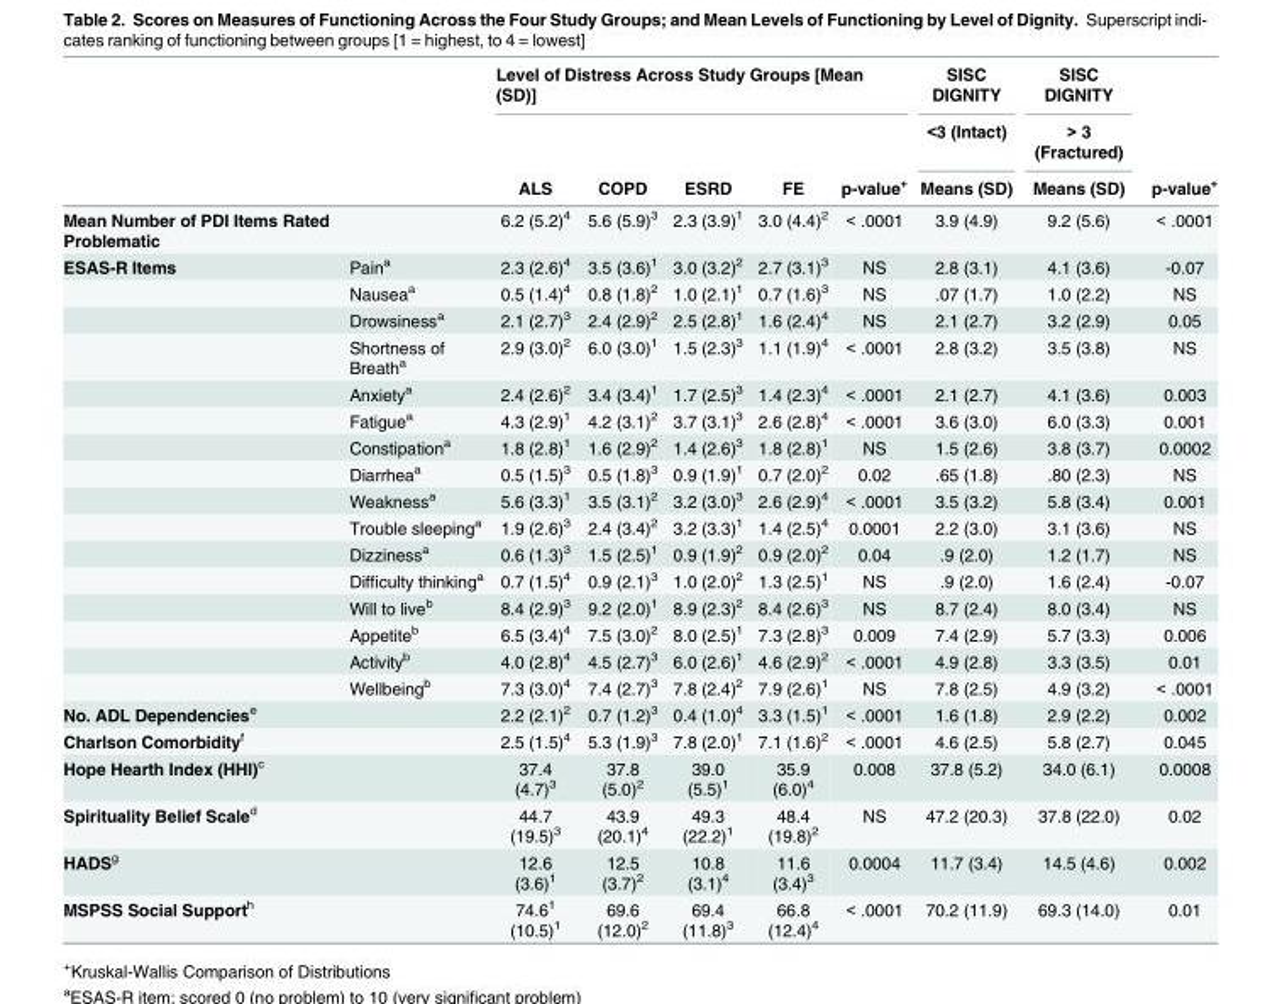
<table><thead><tr><td rowspan="3"></td><td rowspan="3"></td><td colspan="5">Level of Distress Across Study Groups [Mean (SD)]</td><td rowspan="3">SISC DIGNITY &lt;3 (Intact) Means (SD)</td><td rowspan="3">SISC DIGNITY &gt; 3 (Fractured) Means (SD)</td><td rowspan="3">p-value<sup>+</sup></td></tr><tr><td rowspan="2">ALS</td><td rowspan="2">COPD</td><td rowspan="2">ESRD</td><td rowspan="2">FE</td><td rowspan="2">p-value<sup>+</sup></td></tr><tr></tr></thead><tbody><tr><td>Mean Number of PDI Items Rated Problematic</td><td></td><td>6.2 (5.2)<sup>4</sup></td><td>5.6 (5.9)<sup>3</sup></td><td>2.3 (3.9)<sup>1</sup></td><td>3.0 (4.4)<sup>2</sup></td><td>&lt; .0001</td><td>3.9 (4.9)</td><td>9.2 (5.6)</td><td>&lt; .0001</td></tr><tr><td rowspan="16">ESAS-R Items</td><td>Pain<sup>a</sup></td><td>2.3 (2.6)<sup>4</sup></td><td>3.5 (3.6)<sup>1</sup></td><td>3.0 (3.2)<sup>2</sup></td><td>2.7 (3.1)<sup>3</sup></td><td>NS</td><td>2.8 (3.1)</td><td>4.1 (3.6)</td><td>-0.07</td></tr><tr><td>Nausea<sup>a</sup></td><td>0.5 (1.4)<sup>4</sup></td><td>0.8 (1.8)<sup>2</sup></td><td>1.0 (2.1)<sup>1</sup></td><td>0.7 (1.6)<sup>3</sup></td><td>NS</td><td>.07 (1.7)</td><td>1.0 (2.2)</td><td>NS</td></tr><tr><td>Drowsiness<sup>a</sup></td><td>2.1 (2.7)<sup>3</sup></td><td>2.4 (2.9)<sup>2</sup></td><td>2.5 (2.8)<sup>1</sup></td><td>1.6 (2.4)<sup>4</sup></td><td>NS</td><td>2.1 (2.7)</td><td>3.2 (2.9)</td><td>0.05</td></tr><tr><td>Shortness of Breath<sup>a</sup></td><td>2.9 (3.0)<sup>2</sup></td><td>6.0 (3.0)<sup>1</sup></td><td>1.5 (2.3)<sup>3</sup></td><td>1.1 (1.9)<sup>4</sup></td><td>&lt; .0001</td><td>2.8 (3.2)</td><td>3.5 (3.8)</td><td>NS</td></tr><tr><td>Anxiety<sup>a</sup></td><td>2.4 (2.6)<sup>2</sup></td><td>3.4 (3.4)<sup>1</sup></td><td>1.7 (2.5)<sup>3</sup></td><td>1.4 (2.3)<sup>4</sup></td><td>&lt; .0001</td><td>2.1 (2.7)</td><td>4.1 (3.6)</td><td>0.003</td></tr><tr><td>Fatigue<sup>a</sup></td><td>4.3 (2.9)<sup>1</sup></td><td>4.2 (3.1)<sup>2</sup></td><td>3.7 (3.1)<sup>3</sup></td><td>2.6 (2.8)<sup>4</sup></td><td>&lt; .0001</td><td>3.6 (3.0)</td><td>6.0 (3.3)</td><td>0.001</td></tr><tr><td>Constipation<sup>a</sup></td><td>1.8 (2.8)<sup>1</sup></td><td>1.6 (2.9)<sup>2</sup></td><td>1.4 (2.6)<sup>3</sup></td><td>1.8 (2.8)<sup>1</sup></td><td>NS</td><td>1.5 (2.6)</td><td>3.8 (3.7)</td><td>0.0002</td></tr><tr><td>Diarrhea<sup>a</sup></td><td>0.5 (1.5)<sup>3</sup></td><td>0.5 (1.8)<sup>3</sup></td><td>0.9 (1.9)<sup>1</sup></td><td>0.7 (2.0)<sup>2</sup></td><td>0.02</td><td>.65 (1.8)</td><td>.80 (2.3)</td><td>NS</td></tr><tr><td>Weakness<sup>a</sup></td><td>5.6 (3.3)<sup>1</sup></td><td>3.5 (3.1)<sup>2</sup></td><td>3.2 (3.0)<sup>3</sup></td><td>2.6 (2.9)<sup>4</sup></td><td>&lt; .0001</td><td>3.5 (3.2)</td><td>5.8 (3.4)</td><td>0.001</td></tr><tr><td>Trouble sleeping<sup>a</sup></td><td>1.9 (2.6)<sup>3</sup></td><td>2.4 (3.4)<sup>2</sup></td><td>3.2 (3.3)<sup>1</sup></td><td>1.4 (2.5)<sup>4</sup></td><td>0.0001</td><td>2.2 (3.0)</td><td>3.1 (3.6)</td><td>NS</td></tr><tr><td>Dizziness<sup>a</sup></td><td>0.6 (1.3)<sup>3</sup></td><td>1.5 (2.5)<sup>1</sup></td><td>0.9 (1.9)<sup>2</sup></td><td>0.9 (2.0)<sup>2</sup></td><td>0.04</td><td>.9 (2.0)</td><td>1.2 (1.7)</td><td>NS</td></tr><tr><td>Difficulty thinking<sup>a</sup></td><td>0.7 (1.5)<sup>4</sup></td><td>0.9 (2.1)<sup>3</sup></td><td>1.0 (2.0)<sup>2</sup></td><td>1.3 (2.5)<sup>1</sup></td><td>NS</td><td>.9 (2.0)</td><td>1.6 (2.4)</td><td>-0.07</td></tr><tr><td>Will to live<sup>b</sup></td><td>8.4 (2.9)<sup>3</sup></td><td>9.2 (2.0)<sup>1</sup></td><td>8.9 (2.3)<sup>2</sup></td><td>8.4 (2.6)<sup>3</sup></td><td>NS</td><td>8.7 (2.4)</td><td>8.0 (3.4)</td><td>NS</td></tr><tr><td>Appetite<sup>b</sup></td><td>6.5 (3.4)<sup>4</sup></td><td>7.5 (3.0)<sup>2</sup></td><td>8.0 (2.5)<sup>1</sup></td><td>7.3 (2.8)<sup>3</sup></td><td>0.009</td><td>7.4 (2.9)</td><td>5.7 (3.3)</td><td>0.006</td></tr><tr><td>Activity<sup>b</sup></td><td>4.0 (2.8)<sup>4</sup></td><td>4.5 (2.7)<sup>3</sup></td><td>6.0 (2.6)<sup>1</sup></td><td>4.6 (2.9)<sup>2</sup></td><td>&lt; .0001</td><td>4.9 (2.8)</td><td>3.3 (3.5)</td><td>0.01</td></tr><tr><td>Wellbeing<sup>b</sup></td><td>7.3 (3.0)<sup>4</sup></td><td>7.4 (2.7)<sup>3</sup></td><td>7.8 (2.4)<sup>2</sup></td><td>7.9 (2.6)<sup>1</sup></td><td>NS</td><td>7.8 (2.5)</td><td>4.9 (3.2)</td><td>&lt; .0001</td></tr><tr><td>No. ADL Dependencies<sup>e</sup></td><td></td><td>2.2 (2.1)<sup>2</sup></td><td>0.7 (1.2)<sup>3</sup></td><td>0.4 (1.0)<sup>4</sup></td><td>3.3 (1.5)<sup>1</sup></td><td>&lt; .0001</td><td>1.6 (1.8)</td><td>2.9 (2.2)</td><td>0.002</td></tr><tr><td>Charlson Comorbidity<sup>f</sup></td><td></td><td>2.5 (1.5)<sup>4</sup></td><td>5.3 (1.9)<sup>3</sup></td><td>7.8 (2.0)<sup>1</sup></td><td>7.1 (1.6)<sup>2</sup></td><td>&lt; .0001</td><td>4.6 (2.5)</td><td>5.8 (2.7)</td><td>0.045</td></tr><tr><td>Hope Hearth Index (HHI)<sup>c</sup></td><td></td><td>37.4 (4.7)<sup>3</sup></td><td>37.8 (5.0)<sup>2</sup></td><td>39.0 (5.5)<sup>1</sup></td><td>35.9 (6.0)<sup>4</sup></td><td>0.008</td><td>37.8 (5.2)</td><td>34.0 (6.1)</td><td>0.0008</td></tr><tr><td>Spirituality Belief Scale<sup>d</sup></td><td></td><td>44.7 (19.5)<sup>3</sup></td><td>43.9 (20.1)<sup>4</sup></td><td>49.3 (22.2)<sup>1</sup></td><td>48.4 (19.8)<sup>2</sup></td><td>NS</td><td>47.2 (20.3)</td><td>37.8 (22.0)</td><td>0.02</td></tr><tr><td>HADS<sup>g</sup></td><td></td><td>12.6 (3.6)<sup>1</sup></td><td>12.5 (3.7)<sup>2</sup></td><td>10.8 (3.1)<sup>4</sup></td><td>11.6 (3.4)<sup>3</sup></td><td>0.0004</td><td>11.7 (3.4)</td><td>14.5 (4.6)</td><td>0.002</td></tr><tr><td>MSPSS Social Support<sup>h</sup></td><td></td><td>74.6<sup>1</sup> (10.5)<sup>1</sup></td><td>69.6 (12.0)<sup>2</sup></td><td>69.4 (11.8)<sup>3</sup></td><td>66.8 (12.4)<sup>4</sup></td><td>&lt; .0001</td><td>70.2 (11.9)</td><td>69.3 (14.0)</td><td>0.01</td></tr></tbody></table>